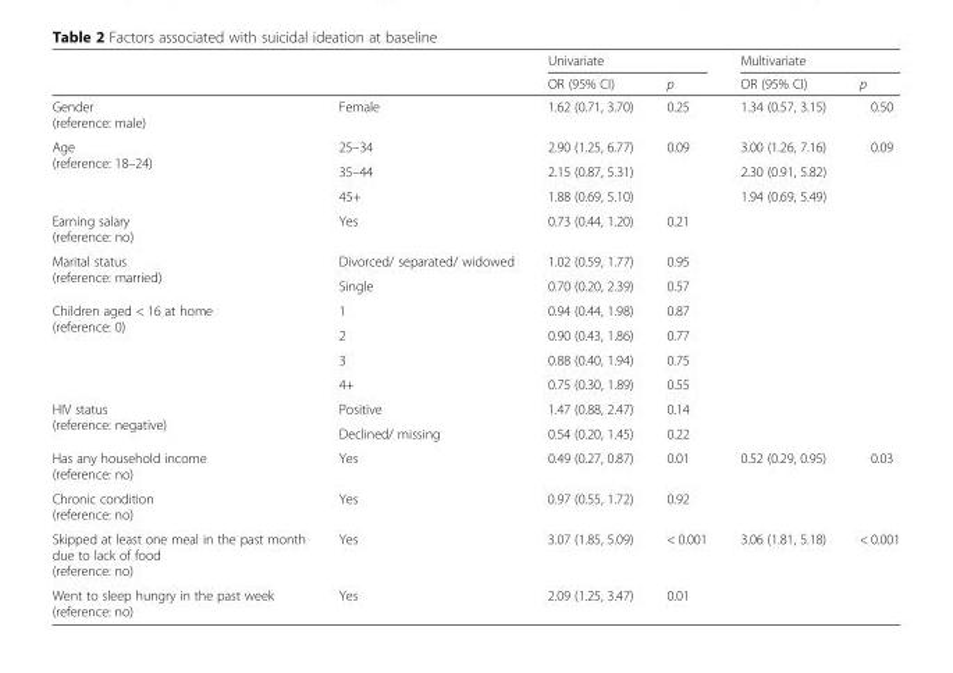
<table><thead><tr><td rowspan="2"></td><td rowspan="2"></td><td colspan="2">Univariate</td><td colspan="2">Multivariate</td></tr><tr><td>OR (95% CI)</td><td>p</td><td>OR (95% CI)</td><td>p</td></tr></thead><tbody><tr><td>Gender (reference: male)</td><td>Female</td><td>1.62 (0.71, 3.70)</td><td>0.25</td><td>1.34 (0.57, 3.15)</td><td>0.50</td></tr><tr><td rowspan="3">Age (reference: 18–24)</td><td>25–34</td><td>2.90 (1.25, 6.77)</td><td rowspan="3">0.09</td><td>3.00 (1.26, 7.16)</td><td rowspan="3">0.09</td></tr><tr><td>35–44</td><td>2.15 (0.87, 5.31)</td><td>2.30 (0.91, 5.82)</td></tr><tr><td>45+</td><td>1.88 (0.69, 5.10)</td><td>1.94 (0.69, 5.49)</td></tr><tr><td>Earning salary (reference: no)</td><td>Yes</td><td>0.73 (0.44, 1.20)</td><td>0.21</td><td></td><td></td></tr><tr><td rowspan="2">Marital status (reference: married)</td><td>Divorced/ separated/ widowed</td><td>1.02 (0.59, 1.77)</td><td>0.95</td><td></td><td></td></tr><tr><td>Single</td><td>0.70 (0.20, 2.39)</td><td>0.57</td><td></td><td></td></tr><tr><td rowspan="4">Children aged &lt; 16 at home (reference: 0)</td><td>1</td><td>0.94 (0.44, 1.98)</td><td>0.87</td><td></td><td></td></tr><tr><td>2</td><td>0.90 (0.43, 1.86)</td><td>0.77</td><td></td><td></td></tr><tr><td>3</td><td>0.88 (0.40, 1.94)</td><td>0.75</td><td></td><td></td></tr><tr><td>4+</td><td>0.75 (0.30, 1.89)</td><td>0.55</td><td></td><td></td></tr><tr><td rowspan="2">HIV status (reference: negative)</td><td>Positive</td><td>1.47 (0.88, 2.47)</td><td>0.14</td><td></td><td></td></tr><tr><td>Declined/ missing</td><td>0.54 (0.20, 1.45)</td><td>0.22</td><td></td><td></td></tr><tr><td>Has any household income (reference: no)</td><td>Yes</td><td>0.49 (0.27, 0.87)</td><td>0.01</td><td>0.52 (0.29, 0.95)</td><td>0.03</td></tr><tr><td>Chronic condition (reference: no)</td><td>Yes</td><td>0.97 (0.55, 1.72)</td><td>0.92</td><td></td><td></td></tr><tr><td>Skipped at least one meal in the past month due to lack of food (reference: no)</td><td>Yes</td><td>3.07 (1.85, 5.09)</td><td>&lt; 0.001</td><td>3.06 (1.81, 5.18)</td><td>&lt; 0.001</td></tr><tr><td>Went to sleep hungry in the past week (reference: no)</td><td>Yes</td><td>2.09 (1.25, 3.47)</td><td>0.01</td><td></td><td></td></tr></tbody></table>